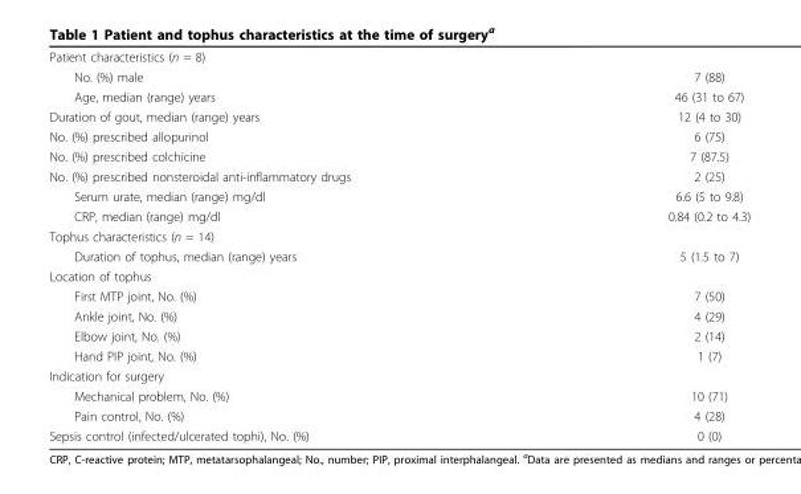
<table><tbody><tr><td colspan="2">Patient characteristics (n = 8)</td></tr><tr><td>No. (%) male</td><td>7 (88)</td></tr><tr><td>Age, median (range) years</td><td>46 (31 to 67)</td></tr><tr><td>Duration of gout, median (range) years</td><td>12 (4 to 30)</td></tr><tr><td>No. (%) prescribed allopurinol</td><td>6 (75)</td></tr><tr><td>No. (%) prescribed colchicine</td><td>7 (87.5)</td></tr><tr><td>No. (%) prescribed nonsteroidal anti-inflammatory drugs</td><td>2 (25)</td></tr><tr><td>Serum urate, median (range) mg/dl</td><td>6.6 (5 to 9.8)</td></tr><tr><td>CRP, median (range) mg/dl</td><td>0.84 (0.2 to 4.3)</td></tr><tr><td colspan="2">Tophus characteristics (n = 14)</td></tr><tr><td>Duration of tophus, median (range) years</td><td>5 (1.5 to 7)</td></tr><tr><td colspan="2">Location of tophus</td></tr><tr><td>First MTP joint, No. (%)</td><td>7 (50)</td></tr><tr><td>Ankle joint, No. (%)</td><td>4 (29)</td></tr><tr><td>Elbow joint, No. (%)</td><td>2 (14)</td></tr><tr><td>Hand PIP joint, No. (%)</td><td>1 (7)</td></tr><tr><td colspan="2">Indication for surgery</td></tr><tr><td>Mechanical problem, No. (%)</td><td>10 (71)</td></tr><tr><td>Pain control, No. (%)</td><td>4 (28)</td></tr><tr><td>Sepsis control (infected/ulcerated tophi), No. (%)</td><td>0 (0)</td></tr></tbody></table>